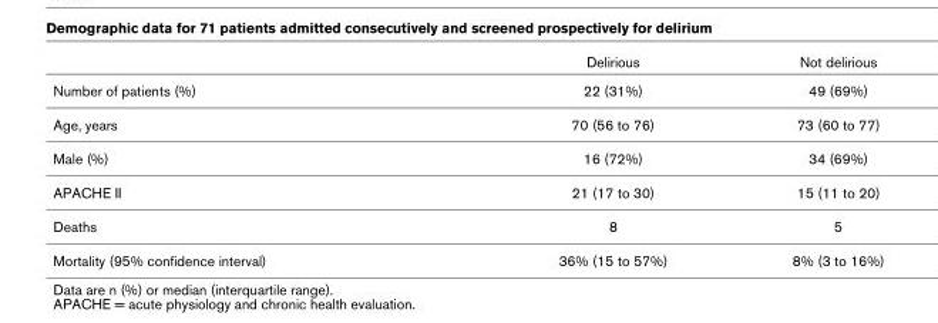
<table><thead><tr><td></td><td>Delirious</td><td>Not delirious</td></tr></thead><tbody><tr><td>Number of patients (%)</td><td>22 (31%)</td><td>49 (69%)</td></tr><tr><td>Age, years</td><td>70 (56 to 76)</td><td>73 (60 to 77)</td></tr><tr><td>Male (%)</td><td>16 (72%)</td><td>34 (69%)</td></tr><tr><td>APACHE II</td><td>21 (17 to 30)</td><td>15 (11 to 20)</td></tr><tr><td>Deaths</td><td>8</td><td>5</td></tr><tr><td>Mortality (95% confidence interval)</td><td>36% (15 to 57%)</td><td>8% (3 to 16%)</td></tr></tbody></table>